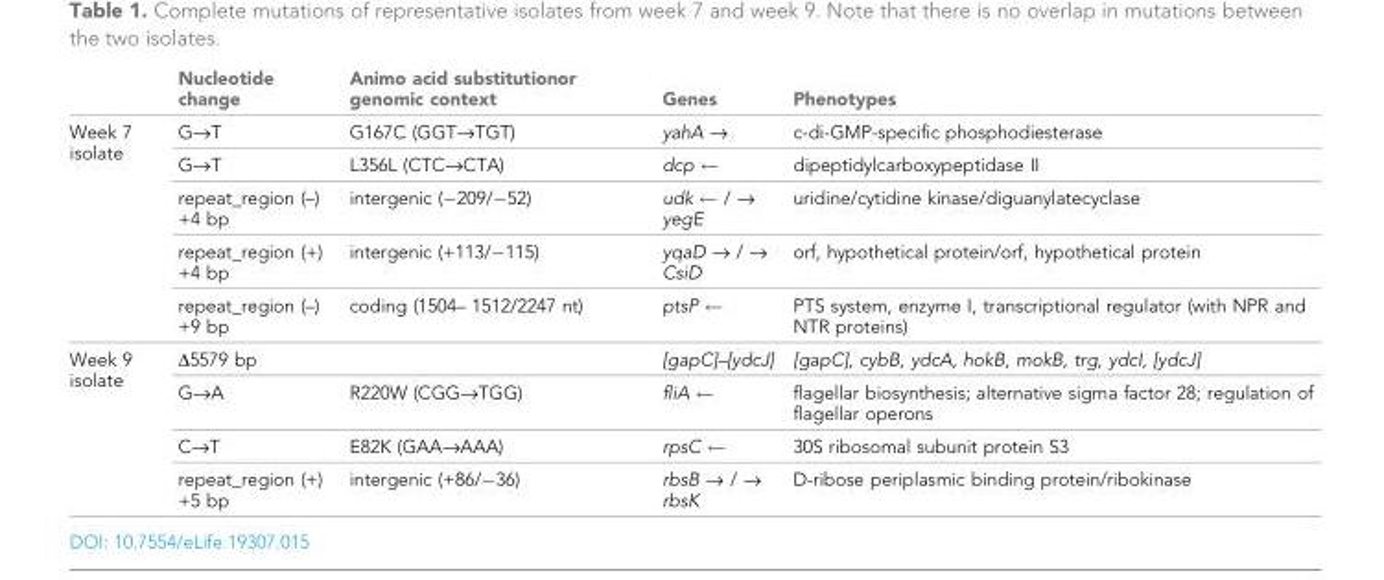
<table><thead><tr><td></td><td>Nucleotide change</td><td>Animo acid substitutionor genomic context</td><td>Genes</td><td>Phenotypes</td></tr></thead><tbody><tr><td rowspan="5">Week 7 isolate</td><td>GfiT</td><td>G167C (GGTfiTGT)</td><td>yahA fi</td><td>c-di-GMP-specific phosphodiesterase</td></tr><tr><td>GfiT</td><td>L356L (CTCfiCTA)</td><td>dcp</td><td>dipeptidylcarboxypeptidase II</td></tr><tr><td>repeat_region (–) +4 bp</td><td>intergenic (−209/−52)</td><td>udk / fi yegE</td><td>uridine/cytidine kinase/diguanylatecyclase</td></tr><tr><td>repeat_region (+) +4 bp</td><td>intergenic (+113/−115)</td><td>yqaD fi / fi CsiD</td><td>orf, hypothetical protein/orf, hypothetical protein</td></tr><tr><td>repeat_region (–) +9 bp</td><td>coding (1504– 1512/2247 nt)</td><td>ptsP</td><td>PTS system, enzyme I, transcriptional regulator (with NPR and NTR proteins)</td></tr><tr><td rowspan="4">Week 9 isolate</td><td>Δ5579 bp</td><td></td><td>[gapC]–[ydcJ]</td><td>[gapC], cybB, ydcA, hokB, mokB, trg, ydcI, [ydcJ]</td></tr><tr><td>GfiA</td><td>R220W (CGGfiTGG)</td><td>fliA</td><td>flagellar biosynthesis; alternative sigma factor 28; regulation of flagellar operons</td></tr><tr><td>CfiT</td><td>E82K (GAAfiAAA)</td><td>rpsC</td><td>30S ribosomal subunit protein S3</td></tr><tr><td>repeat_region (+) +5 bp</td><td>intergenic (+86/−36)</td><td>rbsB fi / fi rbsK</td><td>D-ribose periplasmic binding protein/ribokinase</td></tr></tbody></table>